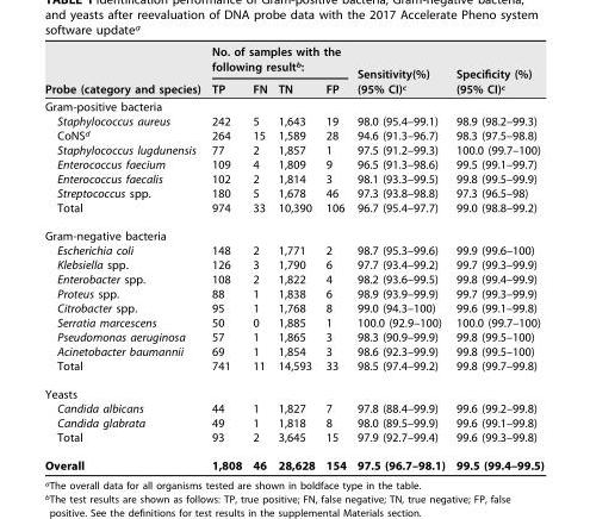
<table><thead><tr><td rowspan="2">Probe (category and species)</td><td colspan="4">No. of samples with the following result<sup>b</sup>:</td><td rowspan="2">Sensitivity(%) (95% CI)<sup>c</sup></td><td rowspan="2">Specificity (%) (95% CI)<sup>c</sup></td></tr><tr><td>TP</td><td>FN</td><td>TN</td><td>FP</td></tr></thead><tbody><tr><td colspan="7">Gram-positive bacteria</td></tr><tr><td>Staphylococcus aureus</td><td>242</td><td>5</td><td>1,643</td><td>19</td><td>98.0 (95.4–99.1)</td><td>98.9 (98.2–99.3)</td></tr><tr><td>CoNS<sup>d</sup></td><td>264</td><td>15</td><td>1,589</td><td>28</td><td>94.6 (91.3–96.7)</td><td>98.3 (97.5–98.8)</td></tr><tr><td>Staphylococcus lugdunensis</td><td>77</td><td>2</td><td>1,857</td><td>1</td><td>97.5 (91.2–99.3)</td><td>100.0 (99.7–100)</td></tr><tr><td>Enterococcus faecium</td><td>109</td><td>4</td><td>1,809</td><td>9</td><td>96.5 (91.3–98.6)</td><td>99.5 (99.1–99.7)</td></tr><tr><td>Enterococcus faecalis</td><td>102</td><td>2</td><td>1,814</td><td>3</td><td>98.1 (93.3–99.5)</td><td>99.8 (99.5–99.9)</td></tr><tr><td>Streptococcus spp.</td><td>180</td><td>5</td><td>1,678</td><td>46</td><td>97.3 (93.8–98.8)</td><td>97.3 (96.5–98)</td></tr><tr><td>Total</td><td>974</td><td>33</td><td>10,390</td><td>106</td><td>96.7 (95.4–97.7)</td><td>99.0 (98.8–99.2)</td></tr><tr><td colspan="7">Gram-negative bacteria</td></tr><tr><td>Escherichia coli</td><td>148</td><td>2</td><td>1,771</td><td>2</td><td>98.7 (95.3–99.6)</td><td>99.9 (99.6–100)</td></tr><tr><td>Klebsiella spp.</td><td>126</td><td>3</td><td>1,790</td><td>6</td><td>97.7 (93.4–99.2)</td><td>99.7 (99.3–99.9)</td></tr><tr><td>Enterobacter spp.</td><td>108</td><td>2</td><td>1,822</td><td>4</td><td>98.2 (93.6–99.5)</td><td>99.8 (99.4–99.9)</td></tr><tr><td>Proteus spp.</td><td>88</td><td>1</td><td>1,838</td><td>6</td><td>98.9 (93.9–99.9)</td><td>99.7 (99.3–99.9)</td></tr><tr><td>Citrobacter spp.</td><td>95</td><td>1</td><td>1,768</td><td>8</td><td>99.0 (94.3–100)</td><td>99.6 (99.1–99.8)</td></tr><tr><td>Serratia marcescens</td><td>50</td><td>0</td><td>1,885</td><td>1</td><td>100.0 (92.9–100)</td><td>100.0 (99.7–100)</td></tr><tr><td>Pseudomonas aeruginosa</td><td>57</td><td>1</td><td>1,865</td><td>3</td><td>98.3 (90.9–99.9)</td><td>99.8 (99.5–100)</td></tr><tr><td>Acinetobacter baumannii</td><td>69</td><td>1</td><td>1,854</td><td>3</td><td>98.6 (92.3–99.9)</td><td>99.8 (99.5–100)</td></tr><tr><td>Total</td><td>741</td><td>11</td><td>14,593</td><td>33</td><td>98.5 (97.4–99.2)</td><td>99.8 (99.7–99.8)</td></tr><tr><td colspan="7">Yeasts</td></tr><tr><td>Candida albicans</td><td>44</td><td>1</td><td>1,827</td><td>7</td><td>97.8 (88.4–99.9)</td><td>99.6 (99.2–99.8)</td></tr><tr><td>Candida glabrata</td><td>49</td><td>1</td><td>1,818</td><td>8</td><td>98.0 (89.5–99.9)</td><td>99.6 (99.1–99.8)</td></tr><tr><td>Total</td><td>93</td><td>2</td><td>3,645</td><td>15</td><td>97.9 (92.7–99.4)</td><td>99.6 (99.3–99.8)</td></tr><tr><td>Overall</td><td>1,808</td><td>46</td><td>28,628</td><td>154</td><td>97.5 (96.7–98.1)</td><td>99.5 (99.4–99.5)</td></tr></tbody></table>